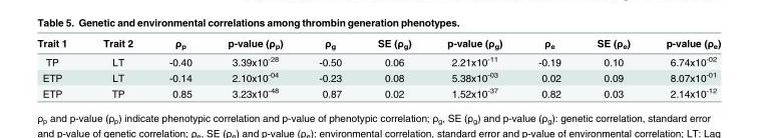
<table><thead><tr><td>Trait 1</td><td>Trait 2</td><td>ρ<sub>p</sub></td><td>p-value (ρ<sub>p</sub>)</td><td>ρ<sub>g</sub></td><td>SE (ρ<sub>g</sub>)</td><td>p-value (ρ<sub>g</sub>)</td><td>ρ<sub>e</sub></td><td>SE (ρ<sub>e</sub>)</td><td>p-value (ρ<sub>e</sub>)</td></tr></thead><tbody><tr><td>TP</td><td>LT</td><td>-0.40</td><td>3.39x10<sup>-28</sup></td><td>-0.50</td><td>0.06</td><td>2.21x10<sup>-11</sup></td><td>-0.19</td><td>0.10</td><td>6.74x10<sup>-02</sup></td></tr><tr><td>ETP</td><td>LT</td><td>-0.14</td><td>2.10x10<sup>-04</sup></td><td>-0.23</td><td>0.08</td><td>5.38x10<sup>-03</sup></td><td>0.02</td><td>0.09</td><td>8.07x10<sup>-01</sup></td></tr><tr><td>ETP</td><td>TP</td><td>0.85</td><td>3.23x10<sup>-48</sup></td><td>0.87</td><td>0.02</td><td>1.52x10<sup>-37</sup></td><td>0.82</td><td>0.03</td><td>2.14x10<sup>-12</sup></td></tr></tbody></table>